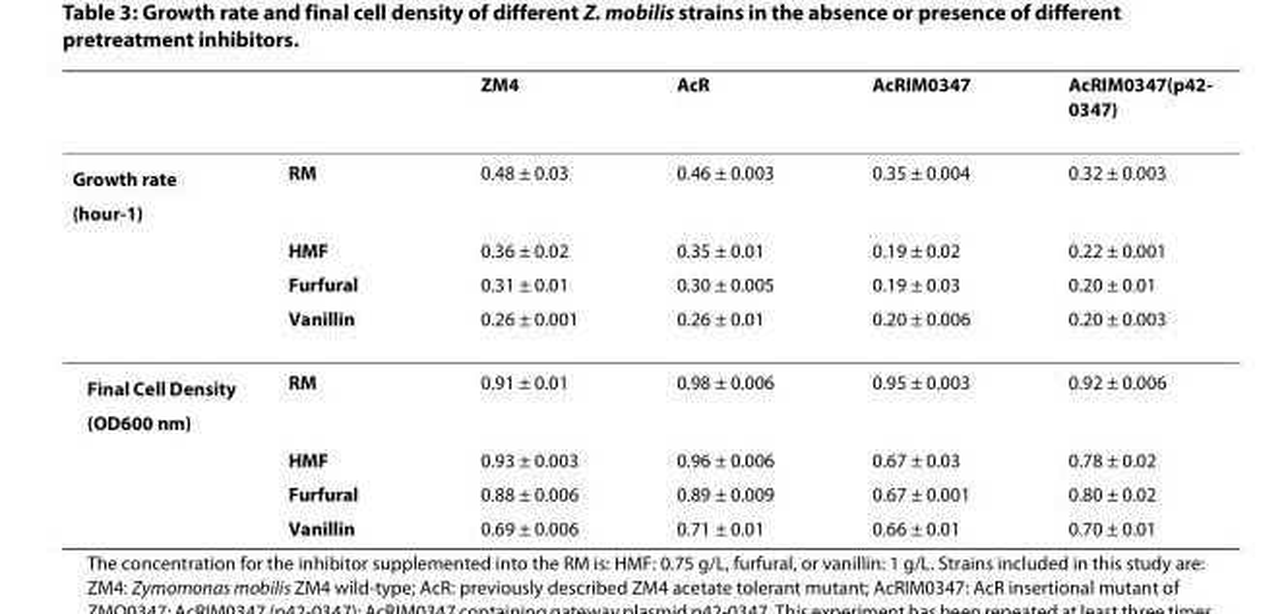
<table><thead><tr><td></td><td></td><td>ZM4</td><td>AcR</td><td>AcRIM0347</td><td>AcRIM0347(p42- 0347)</td></tr></thead><tbody><tr><td rowspan="4">Growth rate (hour<sup>-1</sup>)</td><td>RM</td><td>0.48 ± 0.03</td><td>0.46 ± 0.003</td><td>0.35 ± 0.004</td><td>0.32 ± 0.003</td></tr><tr><td>HMF</td><td>0.36 ± 0.02</td><td>0.35 ± 0.01</td><td>0.19 ± 0.02</td><td>0.22 ± 0.001</td></tr><tr><td>Furfural</td><td>0.31 ± 0.01</td><td>0.30 ± 0.005</td><td>0.19 ± 0.03</td><td>0.20 ± 0.01</td></tr><tr><td>Vanillin</td><td>0.26 ± 0.001</td><td>0.26 ± 0.01</td><td>0.20 ± 0.006</td><td>0.20 ± 0.003</td></tr><tr><td rowspan="4">Final Cell Density (OD<sub>600 nm</sub>)</td><td>RM</td><td>0.91 ± 0.01</td><td>0.98 ± 0.006</td><td>0.95 ± 0.003</td><td>0.92 ± 0.006</td></tr><tr><td>HMF</td><td>0.93 ± 0.003</td><td>0.96 ± 0.006</td><td>0.67 ± 0.03</td><td>0.78 ± 0.02</td></tr><tr><td>Furfural</td><td>0.88 ± 0.006</td><td>0.89 ± 0.009</td><td>0.67 ± 0.001</td><td>0.80 ± 0.02</td></tr><tr><td>Vanillin</td><td>0.69 ± 0.006</td><td>0.71 ± 0.01</td><td>0.66 ± 0.01</td><td>0.70 ± 0.01</td></tr></tbody></table>